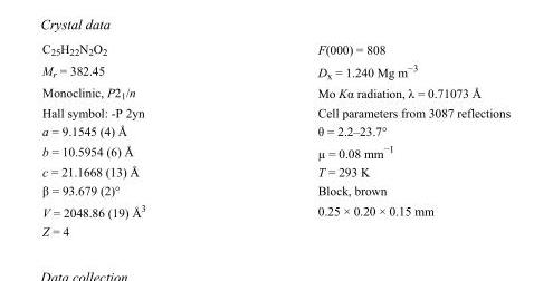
<table><tbody><tr><td>C<sub>25</sub>H<sub>22</sub>N<sub>2</sub>O<sub>2</sub></td><td>F(000) = 808</td></tr><tr><td>M<sub>r</sub> = 382.45</td><td>D<sub>x</sub> = 1.240 Mg m<sup>−3</sup></td></tr><tr><td>Monoclinic, P2<sub>1</sub>/n</td><td>Mo Kα radiation, λ = 0.71073 Å</td></tr><tr><td>Hall symbol: -P 2yn</td><td>Cell parameters from 3087 reflections</td></tr><tr><td>a = 9.1545 (4) Å</td><td>θ = 2.2–23.7°</td></tr><tr><td>b = 10.5954 (6) Å</td><td>µ = 0.08 mm<sup>−1</sup></td></tr><tr><td>c = 21.1668 (13) Å</td><td>T = 293 K</td></tr><tr><td>β = 93.679 (2)°</td><td>Block, brown</td></tr><tr><td>V = 2048.86 (19) Å<sup>3</sup></td><td>0.25 × 0.20 × 0.15 mm</td></tr><tr><td>Z = 4</td><td></td></tr></tbody></table>